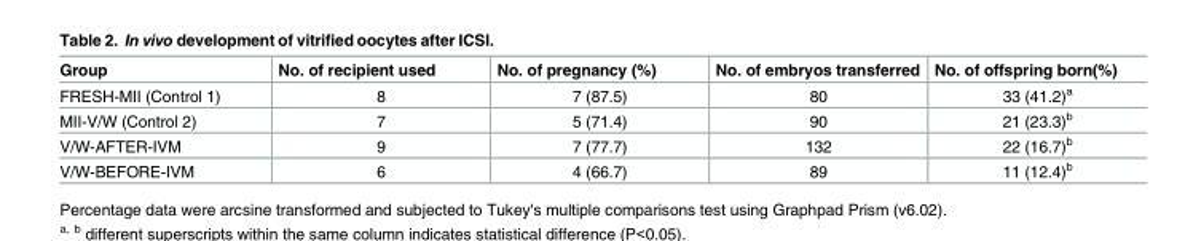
<table><thead><tr><td>Group</td><td>No. of recipient used</td><td>No. of pregnancy (%)</td><td>No. of embryos transferred</td><td>No. of offspring born(%)</td></tr></thead><tbody><tr><td>FRESH-MII (Control 1)</td><td>8</td><td>7 (87.5)</td><td>80</td><td>33 (41.2)<sup>a</sup></td></tr><tr><td>MII-V/W (Control 2)</td><td>7</td><td>5 (71.4)</td><td>90</td><td>21 (23.3)<sup>b</sup></td></tr><tr><td>V/W-AFTER-IVM</td><td>9</td><td>7 (77.7)</td><td>132</td><td>22 (16.7)<sup>b</sup></td></tr><tr><td>V/W-BEFORE-IVM</td><td>6</td><td>4 (66.7)</td><td>89</td><td>11 (12.4)<sup>b</sup></td></tr></tbody></table>